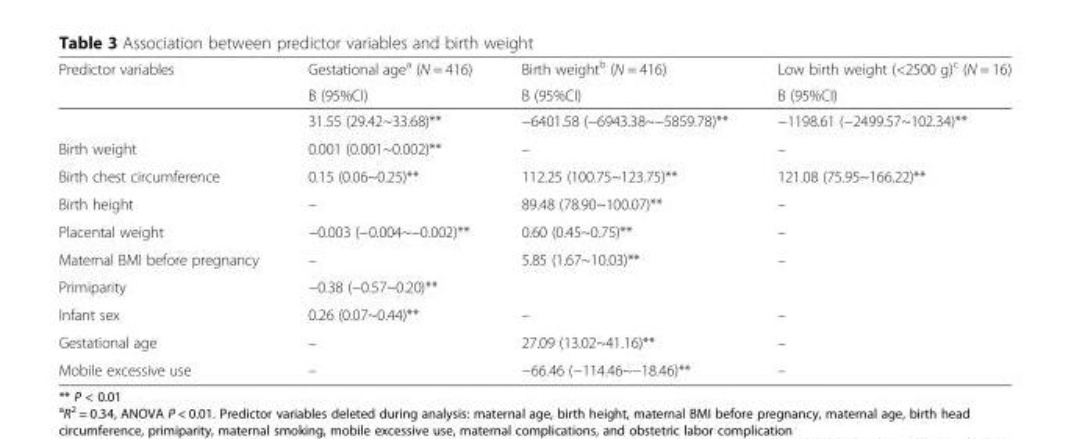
<table><thead><tr><td rowspan="2">Predictor variables</td><td rowspan="2">Gestational age<sup>a</sup> (N = 416) B (95%CI)</td><td rowspan="2">Birth weight<sup>b</sup> (N = 416) B (95%CI)</td><td rowspan="2">Low birth weight (&lt;2500 g)<sup>c</sup> (N = 16) B (95%CI)</td></tr><tr></tr></thead><tbody><tr><td></td><td>31.55 (29.42~33.68)**</td><td>−6401.58 (−6943.38~−5859.78)**</td><td>−1198.61 (−2499.57~102.34)**</td></tr><tr><td>Birth weight</td><td>0.001 (0.001~0.002)**</td><td>–</td><td>–</td></tr><tr><td>Birth chest circumference</td><td>0.15 (0.06~0.25)**</td><td>112.25 (100.75~123.75)**</td><td>121.08 (75.95~166.22)**</td></tr><tr><td>Birth height</td><td>–</td><td>89.48 (78.90~100.07)**</td><td>–</td></tr><tr><td>Placental weight</td><td>−0.003 (−0.004~−0.002)**</td><td>0.60 (0.45~0.75)**</td><td>–</td></tr><tr><td>Maternal BMI before pregnancy</td><td>–</td><td>5.85 (1.67~10.03)**</td><td>–</td></tr><tr><td>Primiparity</td><td>−0.38 (−0.57~0.20)**</td><td></td><td></td></tr><tr><td>Infant sex</td><td>0.26 (0.07~0.44)**</td><td>–</td><td>–</td></tr><tr><td>Gestational age</td><td>–</td><td>27.09 (13.02~41.16)**</td><td>–</td></tr><tr><td>Mobile excessive use</td><td>–</td><td>−66.46 (−114.46~−18.46)**</td><td>–</td></tr></tbody></table>